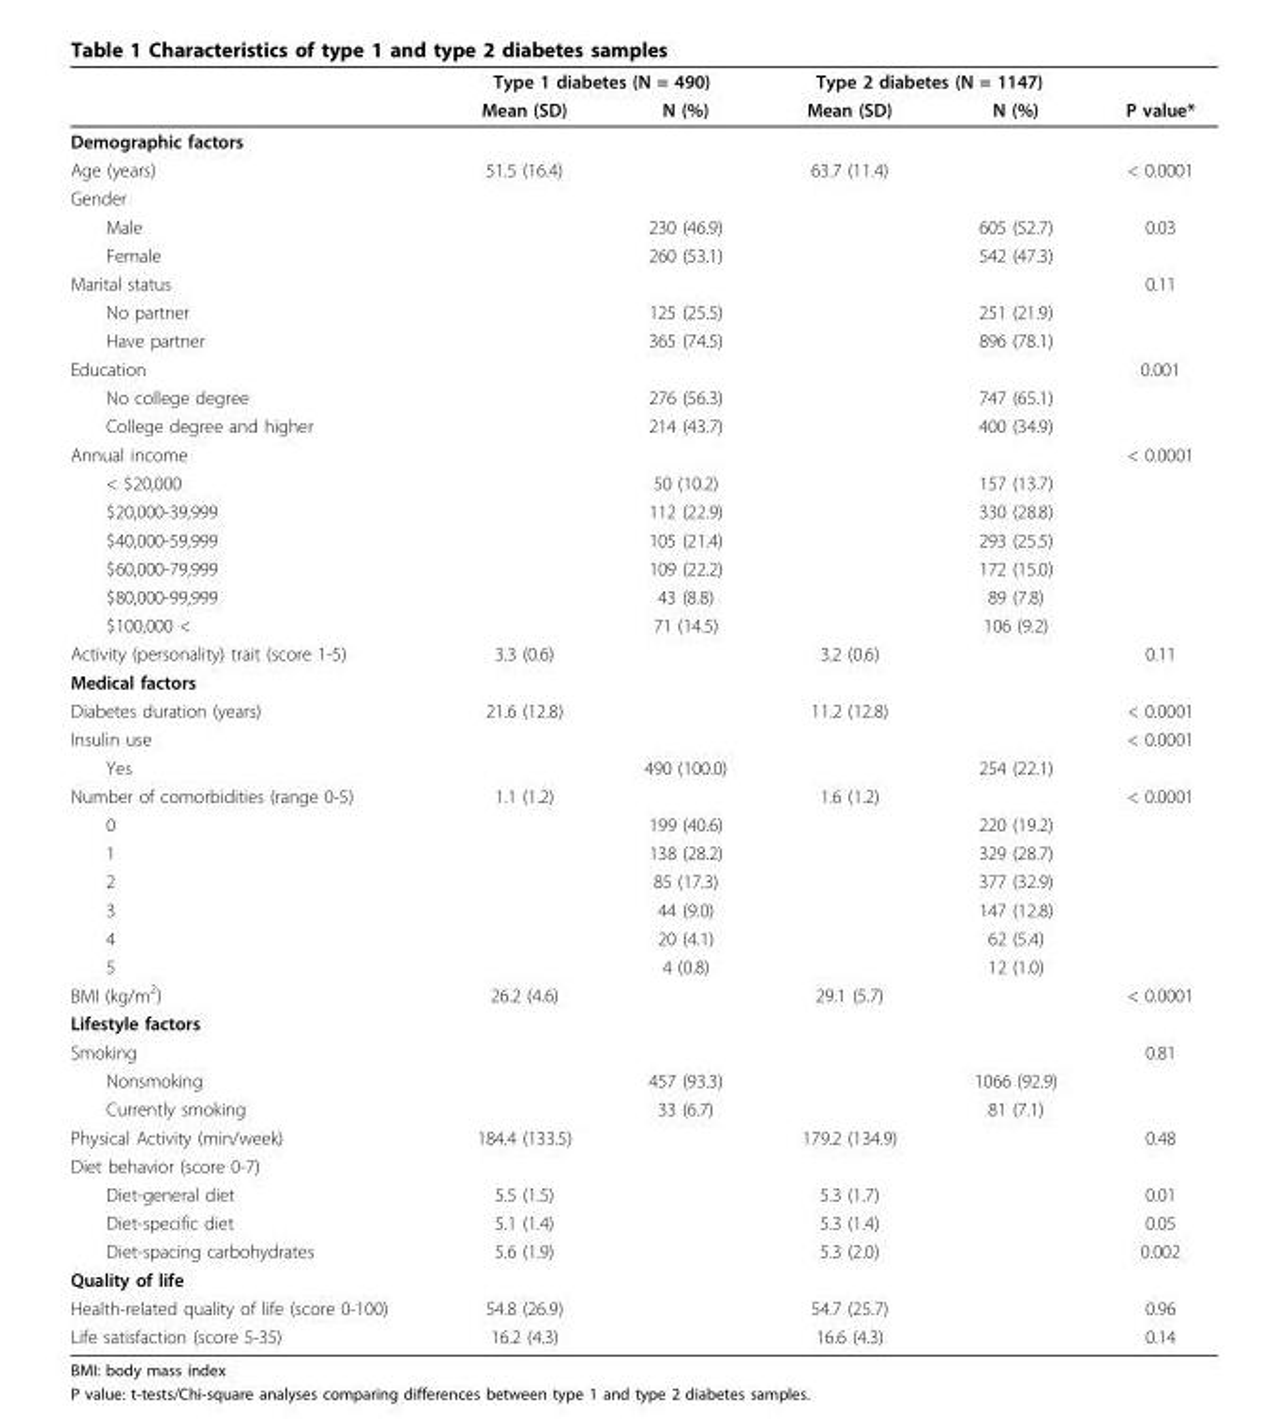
<table><thead><tr><td rowspan="2"></td><td colspan="2">Type 1 diabetes (N = 490)</td><td colspan="2">Type 2 diabetes (N = 1147)</td><td rowspan="2">P value*</td></tr><tr><td>Mean (SD)</td><td>N (%)</td><td>Mean (SD)</td><td>N (%)</td></tr></thead><tbody><tr><td colspan="6">Demographic factors</td></tr><tr><td>Age (years)</td><td>51.5 (16.4)</td><td></td><td>63.7 (11.4)</td><td></td><td>&lt; 0.0001</td></tr><tr><td colspan="6">Gender</td></tr><tr><td>Male</td><td></td><td>230 (46.9)</td><td></td><td>605 (52.7)</td><td>0.03</td></tr><tr><td>Female</td><td></td><td>260 (53.1)</td><td></td><td>542 (47.3)</td><td></td></tr><tr><td>Marital status</td><td></td><td></td><td></td><td></td><td>0.11</td></tr><tr><td>No partner</td><td></td><td>125 (25.5)</td><td></td><td>251 (21.9)</td><td></td></tr><tr><td>Have partner</td><td></td><td>365 (74.5)</td><td></td><td>896 (78.1)</td><td></td></tr><tr><td>Education</td><td></td><td></td><td></td><td></td><td>0.001</td></tr><tr><td>No college degree</td><td></td><td>276 (56.3)</td><td></td><td>747 (65.1)</td><td></td></tr><tr><td>College degree and higher</td><td></td><td>214 (43.7)</td><td></td><td>400 (34.9)</td><td></td></tr><tr><td>Annual income</td><td></td><td></td><td></td><td></td><td>&lt; 0.0001</td></tr><tr><td>&lt; $20,000</td><td></td><td>50 (10.2)</td><td></td><td>157 (13.7)</td><td></td></tr><tr><td>$20,000-39,999</td><td></td><td>112 (22.9)</td><td></td><td>330 (28.8)</td><td></td></tr><tr><td>$40,000-59,999</td><td></td><td>105 (21.4)</td><td></td><td>293 (25.5)</td><td></td></tr><tr><td>$60,000-79,999</td><td></td><td>109 (22.2)</td><td></td><td>172 (15.0)</td><td></td></tr><tr><td>$80,000-99,999</td><td></td><td>43 (8.8)</td><td></td><td>89 (7.8)</td><td></td></tr><tr><td>$100,000 &lt;</td><td></td><td>71 (14.5)</td><td></td><td>106 (9.2)</td><td></td></tr><tr><td>Activity (personality) trait (score 1-5)</td><td>3.3 (0.6)</td><td></td><td>3.2 (0.6)</td><td></td><td>0.11</td></tr><tr><td colspan="6">Medical factors</td></tr><tr><td>Diabetes duration (years)</td><td>21.6 (12.8)</td><td></td><td>11.2 (12.8)</td><td></td><td>&lt; 0.0001</td></tr><tr><td>Insulin use</td><td></td><td></td><td></td><td></td><td>&lt; 0.0001</td></tr><tr><td>Yes</td><td></td><td>490 (100.0)</td><td></td><td>254 (22.1)</td><td></td></tr><tr><td>Number of comorbidities (range 0-5)</td><td>1.1 (1.2)</td><td></td><td>1.6 (1.2)</td><td></td><td>&lt; 0.0001</td></tr><tr><td>0</td><td></td><td>199 (40.6)</td><td></td><td>220 (19.2)</td><td></td></tr><tr><td>1</td><td></td><td>138 (28.2)</td><td></td><td>329 (28.7)</td><td></td></tr><tr><td>2</td><td></td><td>85 (17.3)</td><td></td><td>377 (32.9)</td><td></td></tr><tr><td>3</td><td></td><td>44 (9.0)</td><td></td><td>147 (12.8)</td><td></td></tr><tr><td>4</td><td></td><td>20 (4.1)</td><td></td><td>62 (5.4)</td><td></td></tr><tr><td>5</td><td></td><td>4 (0.8)</td><td></td><td>12 (1.0)</td><td></td></tr><tr><td>BMI (kg/m<sup>2</sup>)</td><td>26.2 (4.6)</td><td></td><td>29.1 (5.7)</td><td></td><td>&lt; 0.0001</td></tr><tr><td colspan="6">Lifestyle factors</td></tr><tr><td>Smoking</td><td></td><td></td><td></td><td></td><td>0.81</td></tr><tr><td>Nonsmoking</td><td></td><td>457 (93.3)</td><td></td><td>1066 (92.9)</td><td></td></tr><tr><td>Currently smoking</td><td></td><td>33 (6.7)</td><td></td><td>81 (7.1)</td><td></td></tr><tr><td>Physical Activity (min/week)</td><td>184.4 (133.5)</td><td></td><td>179.2 (134.9)</td><td></td><td>0.48</td></tr><tr><td colspan="6">Diet behavior (score 0-7)</td></tr><tr><td>Diet-general diet</td><td>5.5 (1.5)</td><td></td><td>5.3 (1.7)</td><td></td><td>0.01</td></tr><tr><td>Diet-specific diet</td><td>5.1 (1.4)</td><td></td><td>5.3 (1.4)</td><td></td><td>0.05</td></tr><tr><td>Diet-spacing carbohydrates</td><td>5.6 (1.9)</td><td></td><td>5.3 (2.0)</td><td></td><td>0.002</td></tr><tr><td colspan="6">Quality of life</td></tr><tr><td>Health-related quality of life (score 0-100)</td><td>54.8 (26.9)</td><td></td><td>54.7 (25.7)</td><td></td><td>0.96</td></tr><tr><td>Life satisfaction (score 5-35)</td><td>16.2 (4.3)</td><td></td><td>16.6 (4.3)</td><td></td><td>0.14</td></tr></tbody></table>